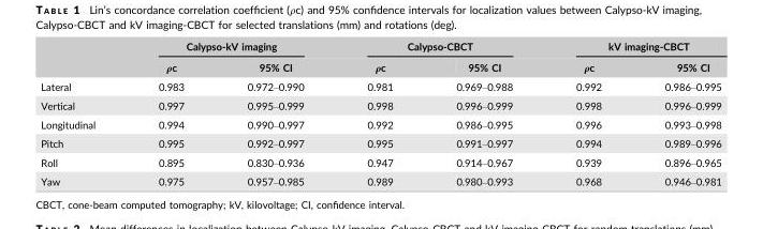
<table><thead><tr><td rowspan="2"></td><td colspan="2">Calypso-kV imaging</td><td colspan="2">Calypso-CBCT</td><td colspan="2">kV imaging-CBCT</td></tr><tr><td>ρc</td><td>95% CI</td><td>ρc</td><td>95% CI</td><td>ρc</td><td>95% CI</td></tr></thead><tbody><tr><td>Lateral</td><td>0.983</td><td>0.972–0.990</td><td>0.981</td><td>0.969–0.988</td><td>0.992</td><td>0.986–0.995</td></tr><tr><td>Vertical</td><td>0.997</td><td>0.995–0.999</td><td>0.998</td><td>0.996–0.999</td><td>0.998</td><td>0.996–0.999</td></tr><tr><td>Longitudinal</td><td>0.994</td><td>0.990–0.997</td><td>0.992</td><td>0.986–0.995</td><td>0.996</td><td>0.993–0.998</td></tr><tr><td>Pitch</td><td>0.995</td><td>0.992–0.997</td><td>0.995</td><td>0.991–0.997</td><td>0.994</td><td>0.989–0.996</td></tr><tr><td>Roll</td><td>0.895</td><td>0.830–0.936</td><td>0.947</td><td>0.914–0.967</td><td>0.939</td><td>0.896–0.965</td></tr><tr><td>Yaw</td><td>0.975</td><td>0.957–0.985</td><td>0.989</td><td>0.980–0.993</td><td>0.968</td><td>0.946–0.981</td></tr></tbody></table>